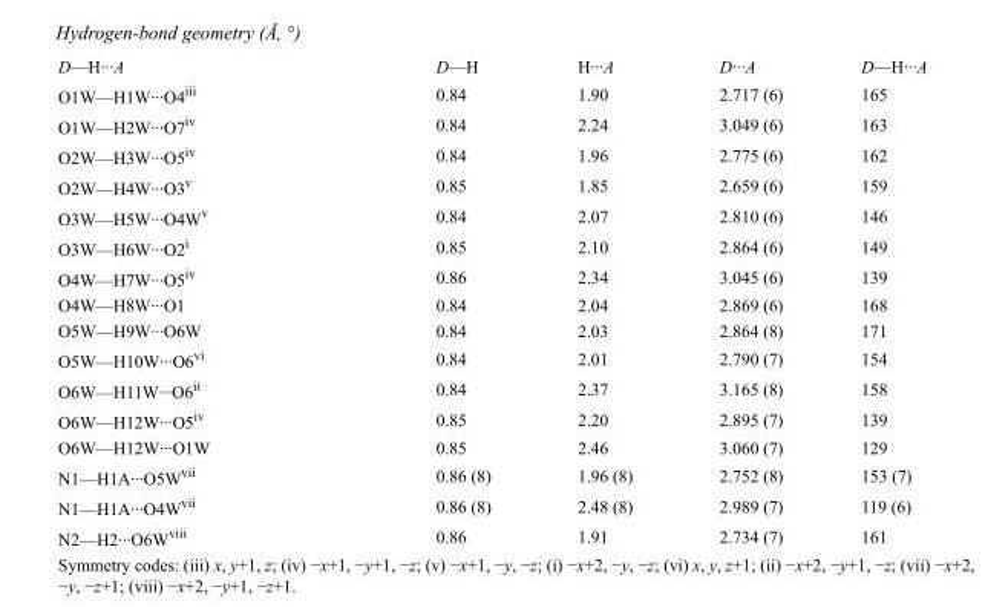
<table><tbody><tr><td>D—H···A</td><td>D—H</td><td>H···A</td><td>D···A</td><td>D—H···A</td></tr><tr><td>O1W—H1W···O4<sup>iii</sup></td><td>0.84</td><td>1.90</td><td>2.717 (6)</td><td>165</td></tr><tr><td>O1W—H2W···O7<sup>iv</sup></td><td>0.84</td><td>2.24</td><td>3.049 (6)</td><td>163</td></tr><tr><td>O2W—H3W···O5<sup>iv</sup></td><td>0.84</td><td>1.96</td><td>2.775 (6)</td><td>162</td></tr><tr><td>O2W—H4W···O3<sup>v</sup></td><td>0.85</td><td>1.85</td><td>2.659 (6)</td><td>159</td></tr><tr><td>O3W—H5W···O4W<sup>v</sup></td><td>0.84</td><td>2.07</td><td>2.810 (6)</td><td>146</td></tr><tr><td>O3W—H6W···O2<sup>i</sup></td><td>0.85</td><td>2.10</td><td>2.864 (6)</td><td>149</td></tr><tr><td>O4W—H7W···O5<sup>iv</sup></td><td>0.86</td><td>2.34</td><td>3.045 (6)</td><td>139</td></tr><tr><td>O4W—H8W···O1</td><td>0.84</td><td>2.04</td><td>2.869 (6)</td><td>168</td></tr><tr><td>O5W—H9W···O6W</td><td>0.84</td><td>2.03</td><td>2.864 (8)</td><td>171</td></tr><tr><td>O5W—H10W···O6<sup>vi</sup></td><td>0.84</td><td>2.01</td><td>2.790 (7)</td><td>154</td></tr><tr><td>O6W—H11W···O6<sup>ii</sup></td><td>0.84</td><td>2.37</td><td>3.165 (8)</td><td>158</td></tr><tr><td>O6W—H12W···O5<sup>iv</sup></td><td>0.85</td><td>2.20</td><td>2.895 (7)</td><td>139</td></tr><tr><td>O6W—H12W···O1W</td><td>0.85</td><td>2.46</td><td>3.060 (7)</td><td>129</td></tr><tr><td>N1—H1A···O5W<sup>vii</sup></td><td>0.86 (8)</td><td>1.96 (8)</td><td>2.752 (8)</td><td>153 (7)</td></tr><tr><td>N1—H1A···O4W<sup>vii</sup></td><td>0.86 (8)</td><td>2.48 (8)</td><td>2.989 (7)</td><td>119 (6)</td></tr><tr><td>N2—H2···O6W<sup>viii</sup></td><td>0.86</td><td>1.91</td><td>2.734 (7)</td><td>161</td></tr></tbody></table>